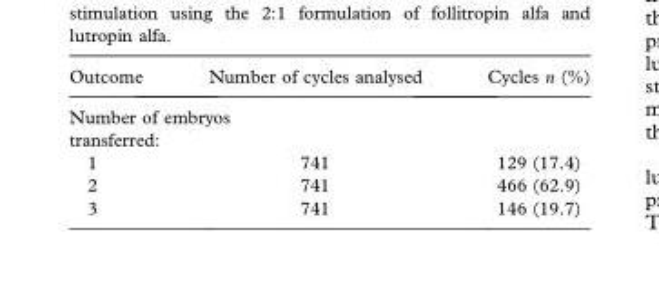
<table><thead><tr><td>Outcome</td><td>Number of cycles analysed</td><td>Cycles n (%)</td></tr></thead><tbody><tr><td colspan="3">Number of embryos transferred:</td></tr><tr><td>1</td><td>741</td><td>129 (17.4)</td></tr><tr><td>2</td><td>741</td><td>466 (62.9)</td></tr><tr><td>3</td><td>741</td><td>146 (19.7)</td></tr></tbody></table>